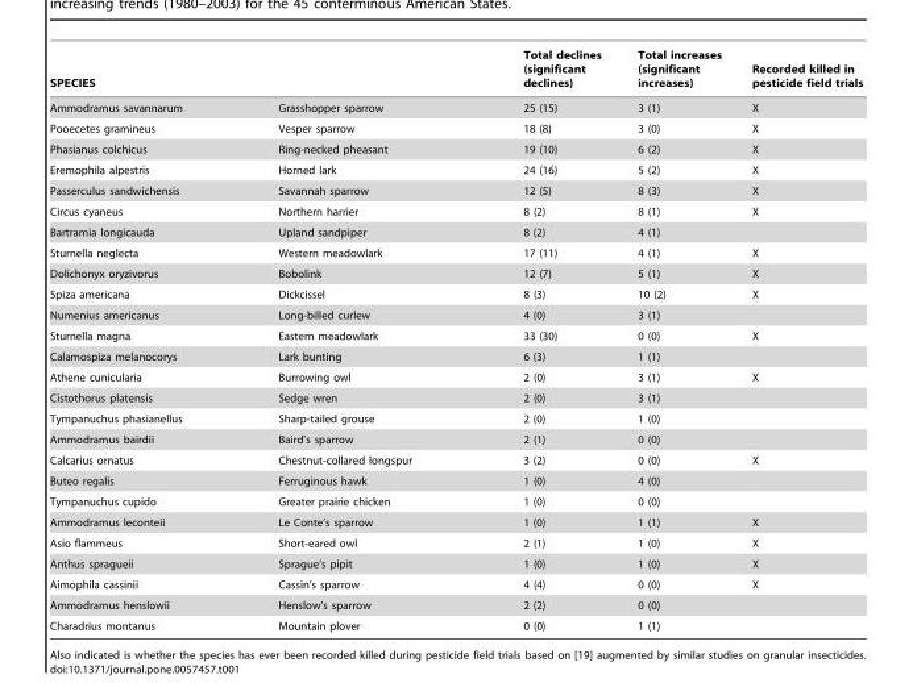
<table><thead><tr><td>SPECIES</td><td></td><td>Total declines (significant declines)</td><td>Total increases (significant increases)</td><td>Recorded killed in pesticide field trials</td></tr></thead><tbody><tr><td>Ammodramus savannarum</td><td>Grasshopper sparrow</td><td>25 (15)</td><td>3 (1)</td><td>X</td></tr><tr><td>Pooecetes gramineus</td><td>Vesper sparrow</td><td>18 (8)</td><td>3 (0)</td><td>X</td></tr><tr><td>Phasianus colchicus</td><td>Ring-necked pheasant</td><td>19 (10)</td><td>6 (2)</td><td>X</td></tr><tr><td>Eremophila alpestris</td><td>Horned lark</td><td>24 (16)</td><td>5 (2)</td><td>X</td></tr><tr><td>Passerculus sandwichensis</td><td>Savannah sparrow</td><td>12 (5)</td><td>8 (3)</td><td>X</td></tr><tr><td>Circus cyaneus</td><td>Northern harrier</td><td>8 (2)</td><td>8 (1)</td><td>X</td></tr><tr><td>Bartramia longicauda</td><td>Upland sandpiper</td><td>8 (2)</td><td>4 (1)</td><td></td></tr><tr><td>Sturnella neglecta</td><td>Western meadowlark</td><td>17 (11)</td><td>4 (1)</td><td>X</td></tr><tr><td>Dolichonyx oryzivorus</td><td>Bobolink</td><td>12 (7)</td><td>5 (1)</td><td>X</td></tr><tr><td>Spiza americana</td><td>Dickcissel</td><td>8 (3)</td><td>10 (2)</td><td>X</td></tr><tr><td>Numenius americanus</td><td>Long-billed curlew</td><td>4 (0)</td><td>3 (1)</td><td></td></tr><tr><td>Sturnella magna</td><td>Eastern meadowlark</td><td>33 (30)</td><td>0 (0)</td><td>X</td></tr><tr><td>Calamospiza melanocorys</td><td>Lark bunting</td><td>6 (3)</td><td>1 (1)</td><td></td></tr><tr><td>Athene cunicularia</td><td>Burrowing owl</td><td>2 (0)</td><td>3 (1)</td><td>X</td></tr><tr><td>Cistothorus platensis</td><td>Sedge wren</td><td>2 (0)</td><td>3 (1)</td><td></td></tr><tr><td>Tympanuchus phasianellus</td><td>Sharp-tailed grouse</td><td>2 (0)</td><td>1 (0)</td><td></td></tr><tr><td>Ammodramus bairdii</td><td>Baird’s sparrow</td><td>2 (1)</td><td>0 (0)</td><td></td></tr><tr><td>Calcarius ornatus</td><td>Chestnut-collared longspur</td><td>3 (2)</td><td>0 (0)</td><td>X</td></tr><tr><td>Buteo regalis</td><td>Ferruginous hawk</td><td>1 (0)</td><td>4 (0)</td><td></td></tr><tr><td>Tympanuchus cupido</td><td>Greater prairie chicken</td><td>1 (0)</td><td>0 (0)</td><td></td></tr><tr><td>Ammodramus leconteii</td><td>Le Conte’s sparrow</td><td>1 (0)</td><td>1 (1)</td><td>X</td></tr><tr><td>Asio flammeus</td><td>Short-eared owl</td><td>2 (1)</td><td>1 (0)</td><td>X</td></tr><tr><td>Anthus spragueii</td><td>Sprague’s pipit</td><td>1 (0)</td><td>1 (0)</td><td>X</td></tr><tr><td>Aimophila cassinii</td><td>Cassin’s sparrow</td><td>4 (4)</td><td>0 (0)</td><td>X</td></tr><tr><td>Ammodramus henslowii</td><td>Henslow’s sparrow</td><td>2 (2)</td><td>0 (0)</td><td></td></tr><tr><td>Charadrius montanus</td><td>Mountain plover</td><td>0 (0)</td><td>1 (1)</td><td></td></tr></tbody></table>